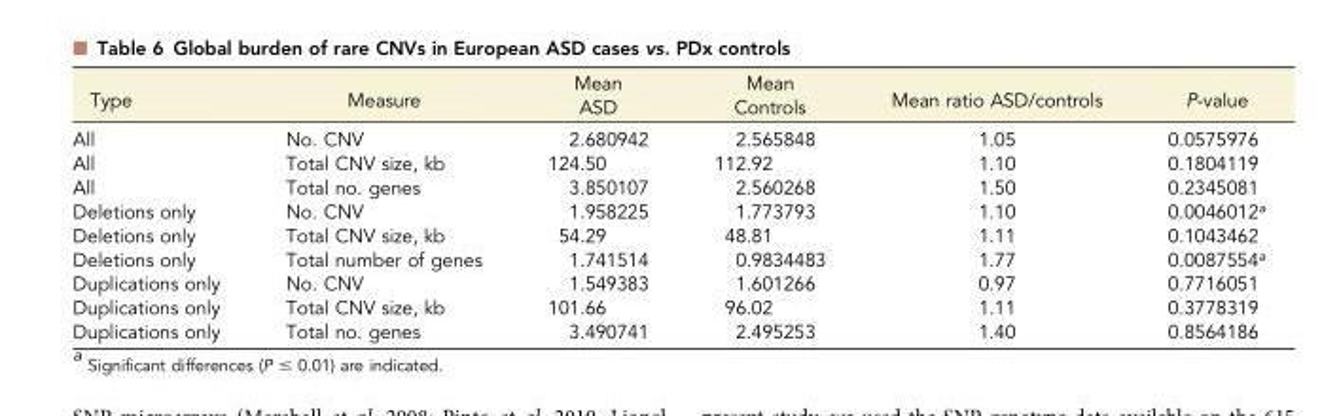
<table><thead><tr><td>Type</td><td>Measure</td><td>Mean ASD</td><td>Mean Controls</td><td>Mean ratio ASD/controls</td><td>P-value</td></tr></thead><tbody><tr><td>All</td><td>No. CNV</td><td>2.680942</td><td>2.565848</td><td>1.05</td><td>0.0575976</td></tr><tr><td>All</td><td>Total CNV size, kb</td><td>124.50</td><td>112.92</td><td>1.10</td><td>0.1804119</td></tr><tr><td>All</td><td>Total no. genes</td><td>3.850107</td><td>2.560268</td><td>1.50</td><td>0.2345081</td></tr><tr><td>Deletions only</td><td>No. CNV</td><td>1.958225</td><td>1.773793</td><td>1.10</td><td>0.0046012<sup>a</sup></td></tr><tr><td>Deletions only</td><td>Total CNV size, kb</td><td>54.29</td><td>48.81</td><td>1.11</td><td>0.1043462</td></tr><tr><td>Deletions only</td><td>Total number of genes</td><td>1.741514</td><td>0.9834483</td><td>1.77</td><td>0.0087554<sup>a</sup></td></tr><tr><td>Duplications only</td><td>No. CNV</td><td>1.549383</td><td>1.601266</td><td>0.97</td><td>0.7716051</td></tr><tr><td>Duplications only</td><td>Total CNV size, kb</td><td>101.66</td><td>96.02</td><td>1.11</td><td>0.3778319</td></tr><tr><td>Duplications only</td><td>Total no. genes</td><td>3.490741</td><td>2.495253</td><td>1.40</td><td>0.8564186</td></tr></tbody></table>